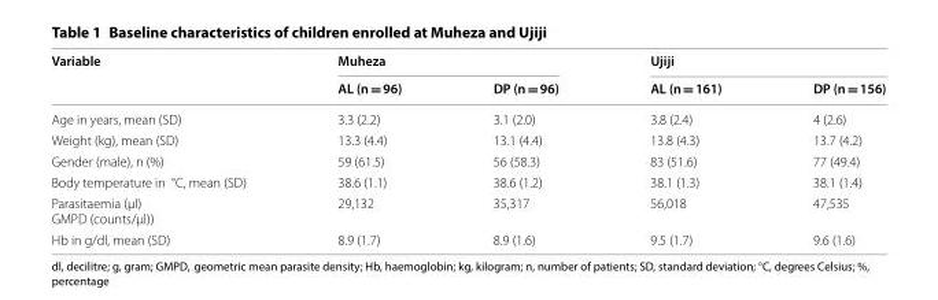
<table><thead><tr><td rowspan="2">Variable</td><td colspan="2">Muheza</td><td colspan="2">Ujiji</td></tr><tr><td>AL (n = 96)</td><td>DP (n = 96)</td><td>AL (n = 161)</td><td>DP (n = 156)</td></tr></thead><tbody><tr><td>Age in years, mean (SD)</td><td>3.3 (2.2)</td><td>3.1 (2.0)</td><td>3.8 (2.4)</td><td>4 (2.6)</td></tr><tr><td>Weight (kg), mean (SD)</td><td>13.3 (4.4)</td><td>13.1 (4.4)</td><td>13.8 (4.3)</td><td>13.7 (4.2)</td></tr><tr><td>Gender (male), n (%)</td><td>59 (61.5)</td><td>56 (58.3)</td><td>83 (51.6)</td><td>77 (49.4)</td></tr><tr><td>Body temperature in °C, mean (SD)</td><td>38.6 (1.1)</td><td>38.6 (1.2)</td><td>38.1 (1.3)</td><td>38.1 (1.4)</td></tr><tr><td>Parasitaemia (µl) GMPD (counts/μl))</td><td>29,132</td><td>35,317</td><td>56,018</td><td>47,535</td></tr><tr><td>Hb in g/dl, mean (SD)</td><td>8.9 (1.7)</td><td>8.9 (1.6)</td><td>9.5 (1.7)</td><td>9.6 (1.6)</td></tr></tbody></table>